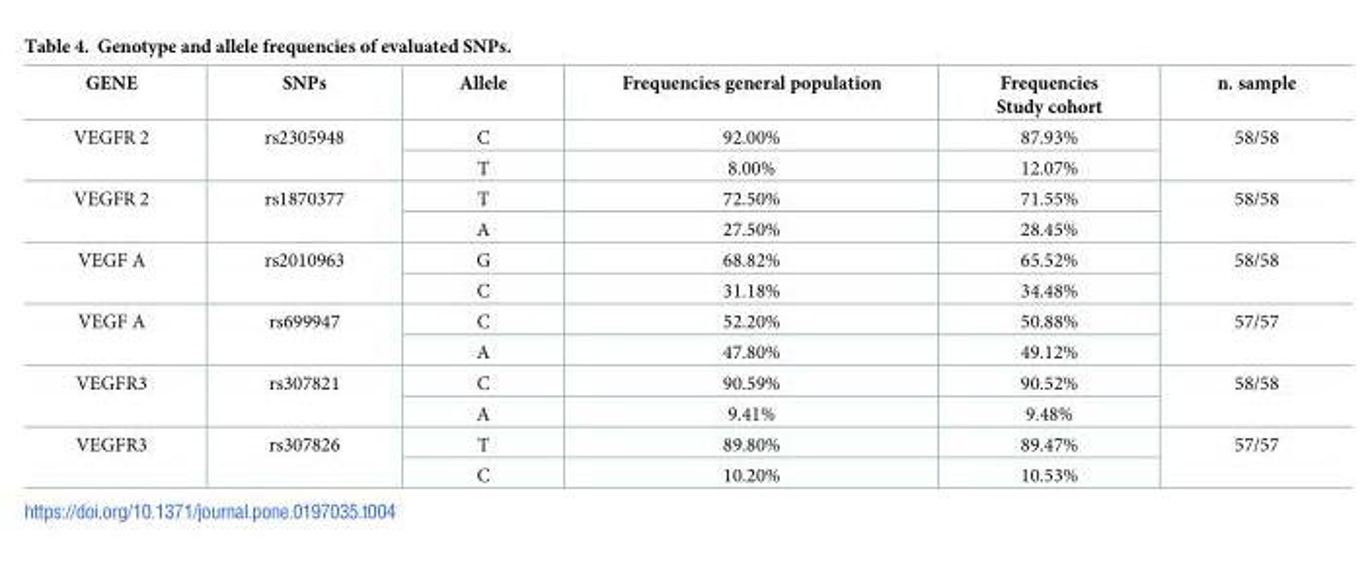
<table><thead><tr><td>GENE</td><td>SNPs</td><td>Allele</td><td>Frequencies general population</td><td>Frequencies Study cohort</td><td>n. sample</td></tr></thead><tbody><tr><td rowspan="2">VEGFR 2</td><td rowspan="2">rs2305948</td><td>C</td><td>92.00%</td><td>87.93%</td><td rowspan="2">58/58</td></tr><tr><td>T</td><td>8.00%</td><td>12.07%</td></tr><tr><td rowspan="2">VEGFR 2</td><td rowspan="2">rs1870377</td><td>T</td><td>72.50%</td><td>71.55%</td><td rowspan="2">58/58</td></tr><tr><td>A</td><td>27.50%</td><td>28.45%</td></tr><tr><td rowspan="2">VEGF A</td><td rowspan="2">rs2010963</td><td>G</td><td>68.82%</td><td>65.52%</td><td rowspan="2">58/58</td></tr><tr><td>C</td><td>31.18%</td><td>34.48%</td></tr><tr><td rowspan="2">VEGF A</td><td rowspan="2">rs699947</td><td>C</td><td>52.20%</td><td>50.88%</td><td rowspan="2">57/57</td></tr><tr><td>A</td><td>47.80%</td><td>49.12%</td></tr><tr><td rowspan="2">VEGFR3</td><td rowspan="2">rs307821</td><td>C</td><td>90.59%</td><td>90.52%</td><td rowspan="2">58/58</td></tr><tr><td>A</td><td>9.41%</td><td>9.48%</td></tr><tr><td rowspan="2">VEGFR3</td><td rowspan="2">rs307826</td><td>T</td><td>89.80%</td><td>89.47%</td><td rowspan="2">57/57</td></tr><tr><td>C</td><td>10.20%</td><td>10.53%</td></tr></tbody></table>